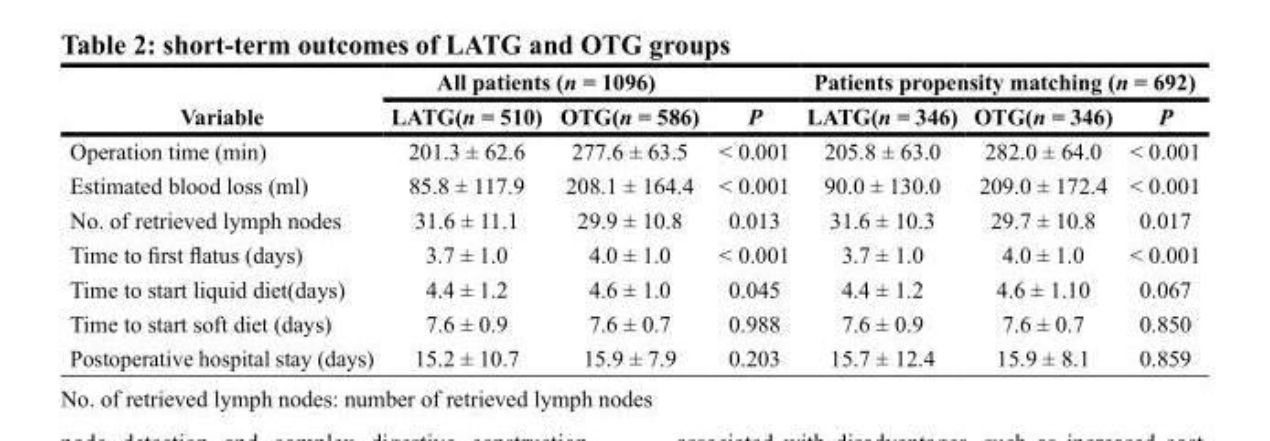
<table><thead><tr><td rowspan="2">Variable</td><td colspan="2">All patients (n = 1096)</td><td rowspan="2">P</td><td colspan="3">Patients propensity matching (n = 692)</td></tr><tr><td>LATG(n = 510)</td><td>OTG(n = 586)</td><td>LATG(n = 346)</td><td>OTG(n = 346)</td><td>P</td></tr></thead><tbody><tr><td>Operation time (min)</td><td>201.3 ± 62.6</td><td>277.6 ± 63.5</td><td>&lt; 0.001</td><td>205.8 ± 63.0</td><td>282.0 ± 64.0</td><td>&lt; 0.001</td></tr><tr><td>Estimated blood loss (ml)</td><td>85.8 ± 117.9</td><td>208.1 ± 164.4</td><td>&lt; 0.001</td><td>90.0 ± 130.0</td><td>209.0 ± 172.4</td><td>&lt; 0.001</td></tr><tr><td>No. of retrieved lymph nodes</td><td>31.6 ± 11.1</td><td>29.9 ± 10.8</td><td>0.013</td><td>31.6 ± 10.3</td><td>29.7 ± 10.8</td><td>0.017</td></tr><tr><td>Time to first flatus (days)</td><td>3.7 ± 1.0</td><td>4.0 ± 1.0</td><td>&lt; 0.001</td><td>3.7 ± 1.0</td><td>4.0 ± 1.0</td><td>&lt; 0.001</td></tr><tr><td>Time to start liquid diet(days)</td><td>4.4 ± 1.2</td><td>4.6 ± 1.0</td><td>0.045</td><td>4.4 ± 1.2</td><td>4.6 ± 1.10</td><td>0.067</td></tr><tr><td>Time to start soft diet (days)</td><td>7.6 ± 0.9</td><td>7.6 ± 0.7</td><td>0.988</td><td>7.6 ± 0.9</td><td>7.6 ± 0.7</td><td>0.850</td></tr><tr><td>Postoperative hospital stay (days)</td><td>15.2 ± 10.7</td><td>15.9 ± 7.9</td><td>0.203</td><td>15.7 ± 12.4</td><td>15.9 ± 8.1</td><td>0.859</td></tr></tbody></table>